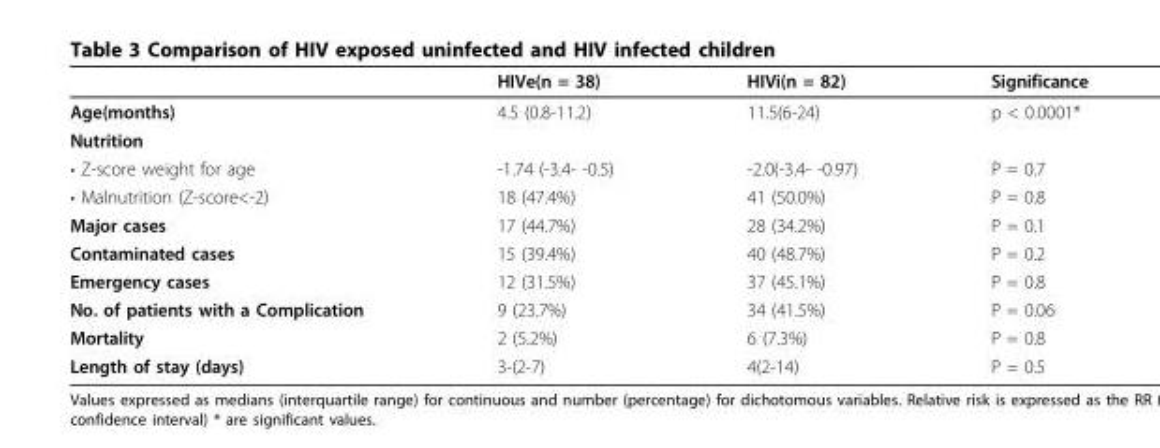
<table><thead><tr><td></td><td>HIVe(n = 38)</td><td>HIVi(n = 82)</td><td>Significance</td></tr></thead><tbody><tr><td>Age(months)</td><td>4.5 (0.8-11.2)</td><td>11.5(6-24)</td><td>p &lt; 0.0001*</td></tr><tr><td colspan="4">Nutrition</td></tr><tr><td>• Z-score weight for age</td><td>-1.74 (-3.4- -0.5)</td><td>-2.0(-3.4- -0.97)</td><td>P = 0.7</td></tr><tr><td>• Malnutrition (Z-score&lt;-2)</td><td>18 (47.4%)</td><td>41 (50.0%)</td><td>P = 0.8</td></tr><tr><td>Major cases</td><td>17 (44.7%)</td><td>28 (34.2%)</td><td>P = 0.1</td></tr><tr><td>Contaminated cases</td><td>15 (39.4%)</td><td>40 (48.7%)</td><td>P = 0.2</td></tr><tr><td>Emergency cases</td><td>12 (31.5%)</td><td>37 (45.1%)</td><td>P = 0.8</td></tr><tr><td>No. of patients with a Complication</td><td>9 (23.7%)</td><td>34 (41.5%)</td><td>P = 0.06</td></tr><tr><td>Mortality</td><td>2 (5.2%)</td><td>6 (7.3%)</td><td>P = 0.8</td></tr><tr><td>Length of stay (days)</td><td>3-(2-7)</td><td>4(2-14)</td><td>P = 0.5</td></tr></tbody></table>